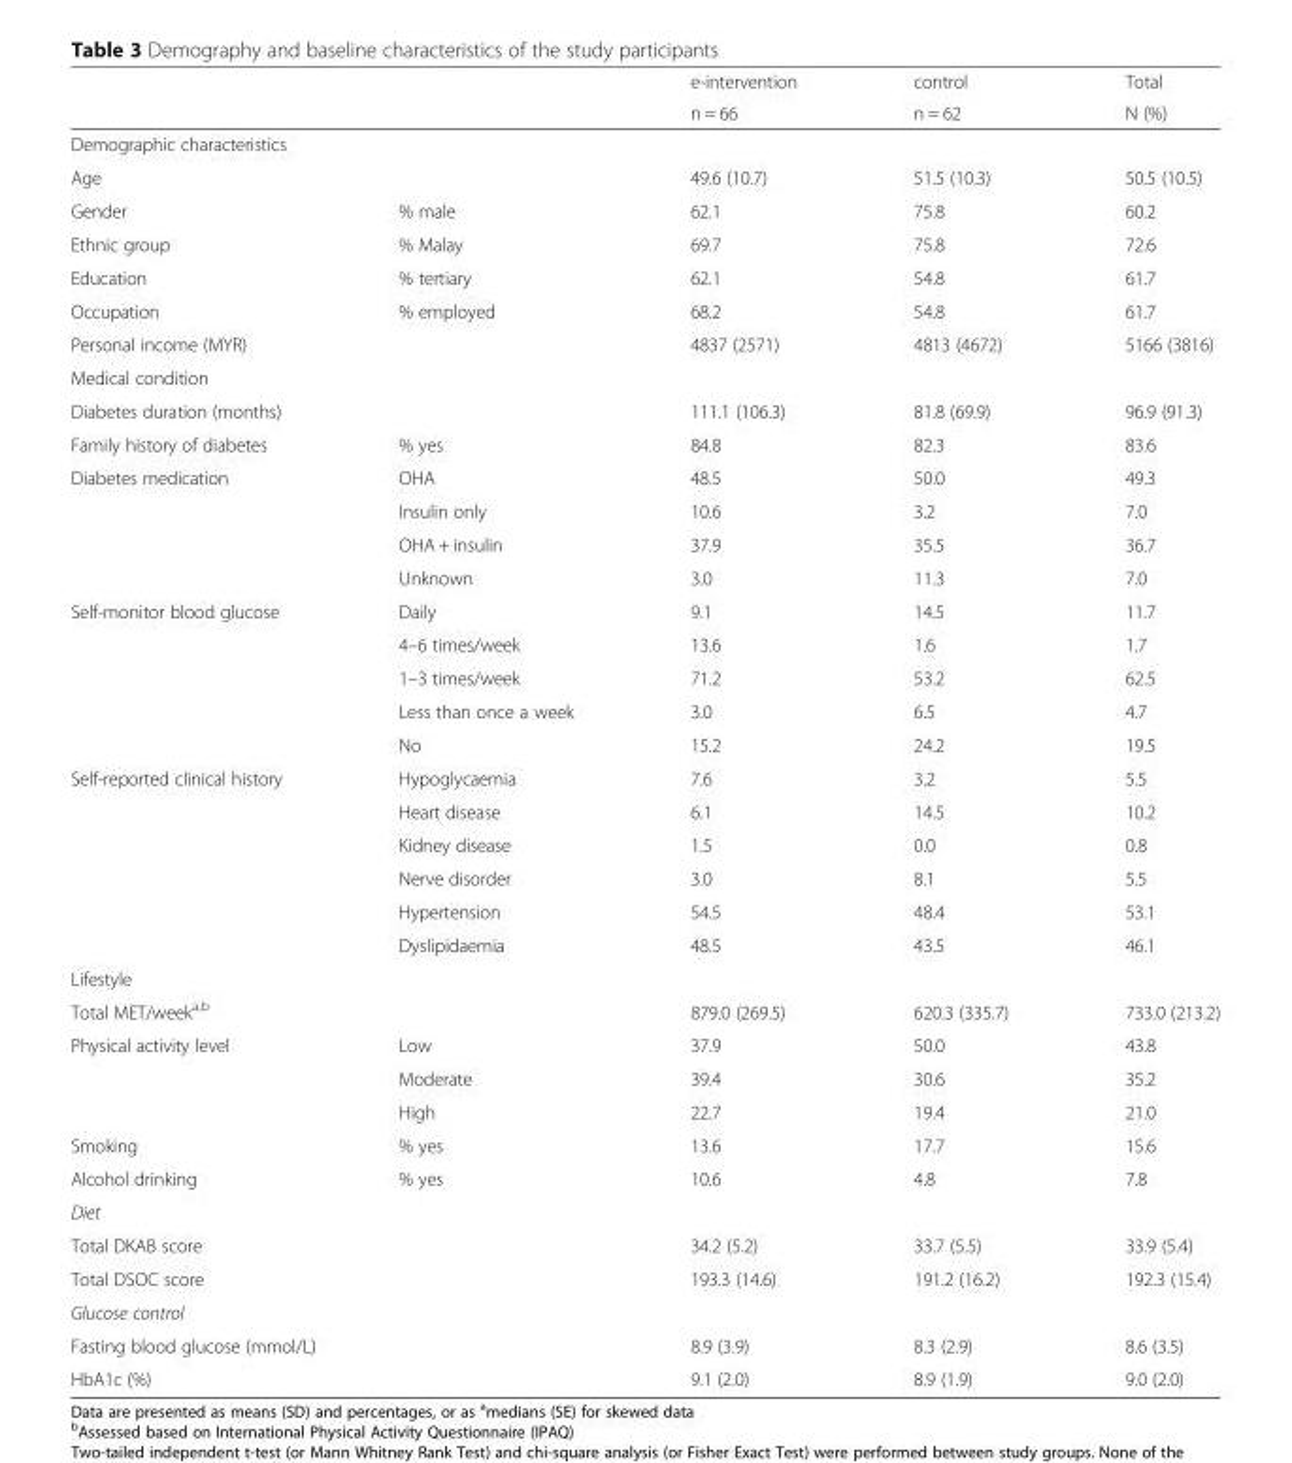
<table><thead><tr><td rowspan="2"></td><td rowspan="2"></td><td rowspan="2">e-intervention n = 66</td><td rowspan="2">control n = 62</td><td rowspan="2">Total N (%)</td></tr><tr></tr></thead><tbody><tr><td colspan="5">Demographic characteristics</td></tr><tr><td>Age</td><td></td><td>49.6 (10.7)</td><td>51.5 (10.3)</td><td>50.5 (10.5)</td></tr><tr><td>Gender</td><td>% male</td><td>62.1</td><td>75.8</td><td>60.2</td></tr><tr><td>Ethnic group</td><td>% Malay</td><td>69.7</td><td>75.8</td><td>72.6</td></tr><tr><td>Education</td><td>% tertiary</td><td>62.1</td><td>54.8</td><td>61.7</td></tr><tr><td>Occupation</td><td>% employed</td><td>68.2</td><td>54.8</td><td>61.7</td></tr><tr><td>Personal income (MYR)</td><td></td><td>4837 (2571)</td><td>4813 (4672)</td><td>5166 (3816)</td></tr><tr><td colspan="5">Medical condition</td></tr><tr><td colspan="2">Diabetes duration (months)</td><td>111.1 (106.3)</td><td>81.8 (69.9)</td><td>96.9 (91.3)</td></tr><tr><td>Family history of diabetes</td><td>% yes</td><td>84.8</td><td>82.3</td><td>83.6</td></tr><tr><td rowspan="4">Diabetes medication</td><td>OHA</td><td>48.5</td><td>50.0</td><td>49.3</td></tr><tr><td>Insulin only</td><td>10.6</td><td>3.2</td><td>7.0</td></tr><tr><td>OHA + insulin</td><td>37.9</td><td>35.5</td><td>36.7</td></tr><tr><td>Unknown</td><td>3.0</td><td>11.3</td><td>7.0</td></tr><tr><td rowspan="5">Self-monitor blood glucose</td><td>Daily</td><td>9.1</td><td>14.5</td><td>11.7</td></tr><tr><td>4–6 times/week</td><td>13.6</td><td>1.6</td><td>1.7</td></tr><tr><td>1–3 times/week</td><td>71.2</td><td>53.2</td><td>62.5</td></tr><tr><td>Less than once a week</td><td>3.0</td><td>6.5</td><td>4.7</td></tr><tr><td>No</td><td>15.2</td><td>24.2</td><td>19.5</td></tr><tr><td rowspan="6">Self-reported clinical history</td><td>Hypoglycaemia</td><td>7.6</td><td>3.2</td><td>5.5</td></tr><tr><td>Heart disease</td><td>6.1</td><td>14.5</td><td>10.2</td></tr><tr><td>Kidney disease</td><td>1.5</td><td>0.0</td><td>0.8</td></tr><tr><td>Nerve disorder</td><td>3.0</td><td>8.1</td><td>5.5</td></tr><tr><td>Hypertension</td><td>54.5</td><td>48.4</td><td>53.1</td></tr><tr><td>Dyslipidaemia</td><td>48.5</td><td>43.5</td><td>46.1</td></tr><tr><td colspan="5">Lifestyle</td></tr><tr><td>Total MET/week<sup>a,b</sup></td><td></td><td>879.0 (269.5)</td><td>620.3 (335.7)</td><td>733.0 (213.2)</td></tr><tr><td rowspan="3">Physical activity level</td><td>Low</td><td>37.9</td><td>50.0</td><td>43.8</td></tr><tr><td>Moderate</td><td>39.4</td><td>30.6</td><td>35.2</td></tr><tr><td>High</td><td>22.7</td><td>19.4</td><td>21.0</td></tr><tr><td>Smoking</td><td>% yes</td><td>13.6</td><td>17.7</td><td>15.6</td></tr><tr><td>Alcohol drinking</td><td>% yes</td><td>10.6</td><td>4.8</td><td>7.8</td></tr><tr><td colspan="5">Diet</td></tr><tr><td>Total DKAB score</td><td></td><td>34.2 (5.2)</td><td>33.7 (5.5)</td><td>33.9 (5.4)</td></tr><tr><td>Total DSOC score</td><td></td><td>193.3 (14.6)</td><td>191.2 (16.2)</td><td>192.3 (15.4)</td></tr><tr><td colspan="5">Glucose control</td></tr><tr><td colspan="2">Fasting blood glucose (mmol/L)</td><td>8.9 (3.9)</td><td>8.3 (2.9)</td><td>8.6 (3.5)</td></tr><tr><td>HbA1c (%)</td><td></td><td>9.1 (2.0)</td><td>8.9 (1.9)</td><td>9.0 (2.0)</td></tr></tbody></table>